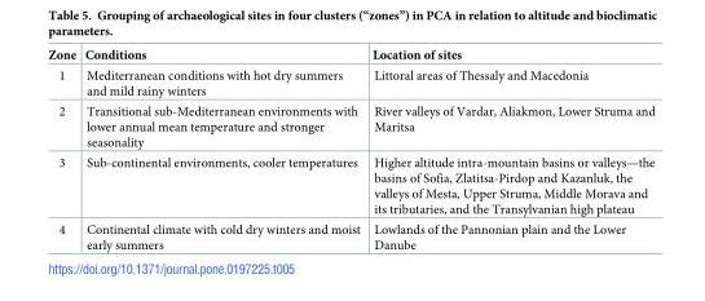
<table><thead><tr><td>Zone</td><td>Conditions</td><td>Location of sites</td></tr></thead><tbody><tr><td>1</td><td>Mediterranean conditions with hot dry summers and mild rainy winters</td><td>Littoral areas of Thessaly and Macedonia</td></tr><tr><td>2</td><td>Transitional sub-Mediterranean environments with lower annual mean temperature and stronger seasonality</td><td>River valleys of Vardar, Aliakmon, Lower Struma and Maritsa</td></tr><tr><td>3</td><td>Sub-continental environments, cooler temperatures</td><td>Higher altitude intra-mountain basins or valleys—the basins of Sofia, Zlatitsa-Pirdop and Kazanluk, the valleys of Mesta, Upper Struma, Middle Morava and its tributaries, and the Transylvanian high plateau</td></tr><tr><td>4</td><td>Continental climate with cold dry winters and moist early summers</td><td>Lowlands of the Pannonian plain and the Lower Danube</td></tr></tbody></table>